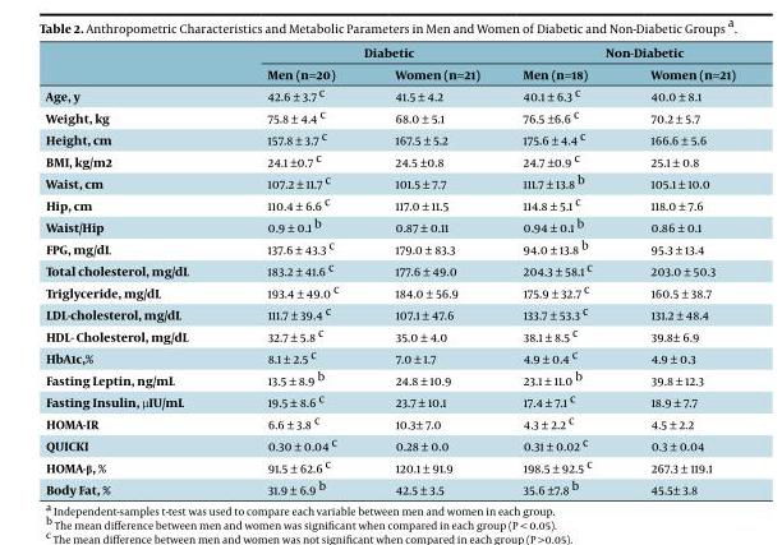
<table><thead><tr><td rowspan="2"></td><td colspan="2">Diabetic</td><td colspan="2">Non-Diabetic</td></tr><tr><td>Men (n=20)</td><td>Women (n=21)</td><td>Men (n=18)</td><td>Women (n=21)</td></tr></thead><tbody><tr><td>Age, y</td><td>42.6 ± 3.7 c</td><td>41.5 ± 4.2</td><td>40.1 ± 6.3 c</td><td>40.0 ± 8.1</td></tr><tr><td>Weight, kg</td><td>75.8 ± 4.4 c</td><td>68.0 ± 5.1</td><td>76.5 ±6.6 c</td><td>70.2 ± 5.7</td></tr><tr><td>Height, cm</td><td>157.8 ± 3.7 c</td><td>167.5 ± 5.2</td><td>175.6 ± 4.4 c</td><td>166.6 ± 5.6</td></tr><tr><td>BMI, kg/m<sup>2</sup></td><td>24.1 ±0.7 c</td><td>24.5 ±0.8</td><td>24.7 ±0.9 c</td><td>25.1 ± 0.8</td></tr><tr><td>Waist, cm</td><td>107.2 ± 11.7 c</td><td>101.5 ± 7.7</td><td>111.7 ± 13.8 b</td><td>105.1 ± 10.0</td></tr><tr><td>Hip, cm</td><td>110.4 ± 6.6 c</td><td>117.0 ± 11.5</td><td>114.8 ± 5.1 c</td><td>118.0 ± 7.6</td></tr><tr><td>Waist/Hip</td><td>0.9 ± 0.1 b</td><td>0.87 ± 0.11</td><td>0.94 ± 0.1 b</td><td>0.86 ± 0.1</td></tr><tr><td>FPG, mg/dL</td><td>137.6 ± 43.3 c</td><td>179.0 ± 83.3</td><td>94.0 ± 13.8 b</td><td>95.3 ± 13.4</td></tr><tr><td>Total cholesterol, mg/dL</td><td>183.2 ± 41.6 c</td><td>177.6 ± 49.0</td><td>204.3 ± 58.1 c</td><td>203.0 ± 50.3</td></tr><tr><td>Triglyceride, mg/dL</td><td>193.4 ± 49.0 c</td><td>184.0 ± 56.9</td><td>175.9 ± 32.7 c</td><td>160.5 ± 38.7</td></tr><tr><td>LDL-cholesterol, mg/dL</td><td>111.7 ± 39.4 c</td><td>107.1 ± 47.6</td><td>133.7 ± 53.3 c</td><td>131.2 ± 48.4</td></tr><tr><td>HDL- Cholesterol, mg/dL</td><td>32.7 ± 5.8 c</td><td>35.0 ± 4.0</td><td>38.1 ± 8.5 c</td><td>39.8± 6.9</td></tr><tr><td>HbA1c,%</td><td>8.1 ± 2.5 c</td><td>7.0 ± 1.7</td><td>4.9 ± 0.4 c</td><td>4.9 ± 0.3</td></tr><tr><td>Fasting Leptin, ng/mL</td><td>13.5 ± 8.9 b</td><td>24.8 ± 10.9</td><td>23.1 ± 11.0 b</td><td>39.8 ± 12.3</td></tr><tr><td>Fasting Insulin, µIU/mL</td><td>19.5 ± 8.6 c</td><td>23.7 ± 10.1</td><td>17.4 ± 7.1 c</td><td>18.9 ± 7.7</td></tr><tr><td>HOMA-IR</td><td>6.6 ± 3.8 c</td><td>10.3± 7.0</td><td>4.3 ± 2.2 c</td><td>4.5 ± 2.2</td></tr><tr><td>QUICKI</td><td>0.30 ± 0.04 c</td><td>0.28 ± 0.0</td><td>0.31 ± 0.02 c</td><td>0.3 ± 0.04</td></tr><tr><td>HOMA-β, %</td><td>91.5 ± 62.6 c</td><td>120.1 ± 91.9</td><td>198.5 ± 92.5 c</td><td>267.3 ± 119.1</td></tr><tr><td>Body Fat, %</td><td>31.9 ± 6.9 b</td><td>42.5 ± 3.5</td><td>35.6 ±7.8 b</td><td>45.5± 3.8</td></tr></tbody></table>